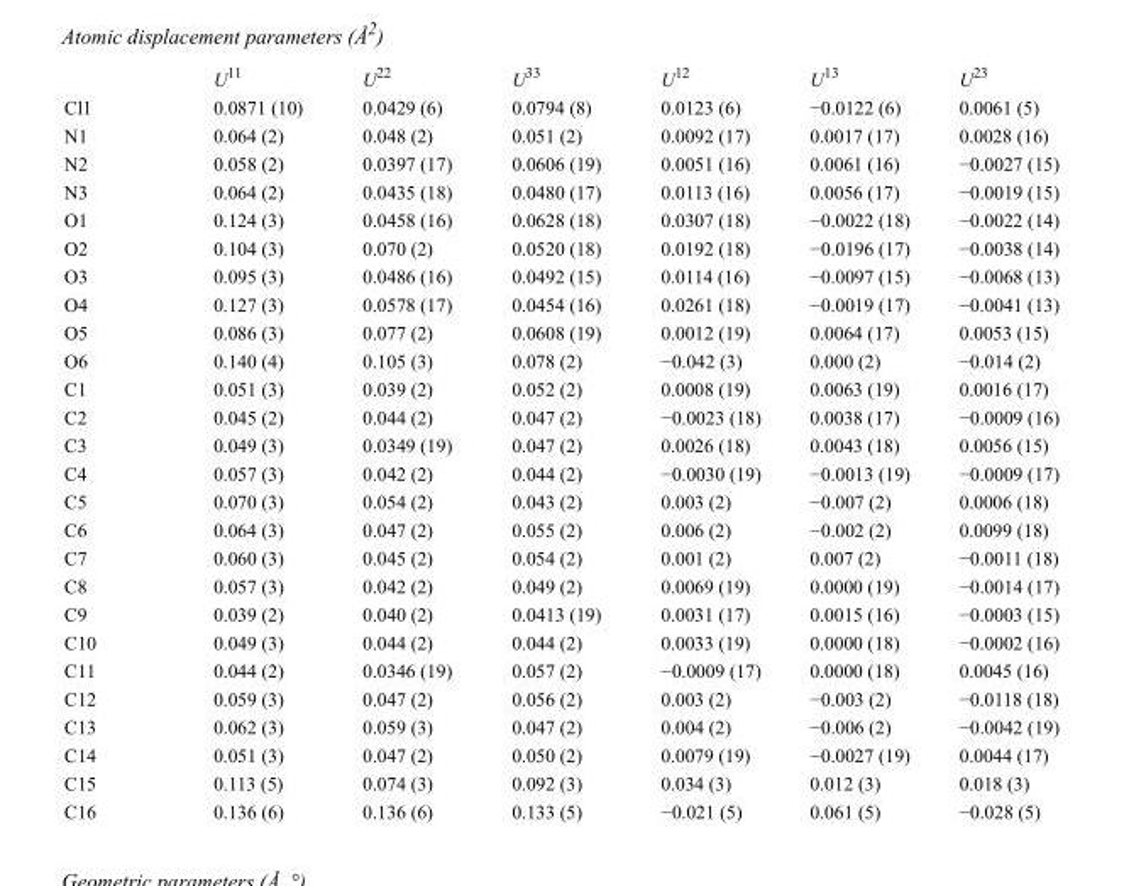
<table><thead><tr><td></td><td>U<sup>11</sup></td><td>U<sup>22</sup></td><td>U<sup>33</sup></td><td>U<sup>12</sup></td><td>U<sup>13</sup></td><td>U<sup>23</sup></td></tr></thead><tbody><tr><td>Cl1</td><td>0.0871 (10)</td><td>0.0429 (6)</td><td>0.0794 (8)</td><td>0.0123 (6)</td><td>−0.0122 (6)</td><td>0.0061 (5)</td></tr><tr><td>N1</td><td>0.064 (2)</td><td>0.048 (2)</td><td>0.051 (2)</td><td>0.0092 (17)</td><td>0.0017 (17)</td><td>0.0028 (16)</td></tr><tr><td>N2</td><td>0.058 (2)</td><td>0.0397 (17)</td><td>0.0606 (19)</td><td>0.0051 (16)</td><td>0.0061 (16)</td><td>−0.0027 (15)</td></tr><tr><td>N3</td><td>0.064 (2)</td><td>0.0435 (18)</td><td>0.0480 (17)</td><td>0.0113 (16)</td><td>0.0056 (17)</td><td>−0.0019 (15)</td></tr><tr><td>O1</td><td>0.124 (3)</td><td>0.0458 (16)</td><td>0.0628 (18)</td><td>0.0307 (18)</td><td>−0.0022 (18)</td><td>−0.0022 (14)</td></tr><tr><td>O2</td><td>0.104 (3)</td><td>0.070 (2)</td><td>0.0520 (18)</td><td>0.0192 (18)</td><td>−0.0196 (17)</td><td>−0.0038 (14)</td></tr><tr><td>O3</td><td>0.095 (3)</td><td>0.0486 (16)</td><td>0.0492 (15)</td><td>0.0114 (16)</td><td>−0.0097 (15)</td><td>−0.0068 (13)</td></tr><tr><td>O4</td><td>0.127 (3)</td><td>0.0578 (17)</td><td>0.0454 (16)</td><td>0.0261 (18)</td><td>−0.0019 (17)</td><td>−0.0041 (13)</td></tr><tr><td>O5</td><td>0.086 (3)</td><td>0.077 (2)</td><td>0.0608 (19)</td><td>0.0012 (19)</td><td>0.0064 (17)</td><td>0.0053 (15)</td></tr><tr><td>O6</td><td>0.140 (4)</td><td>0.105 (3)</td><td>0.078 (2)</td><td>−0.042 (3)</td><td>0.000 (2)</td><td>−0.014 (2)</td></tr><tr><td>C1</td><td>0.051 (3)</td><td>0.039 (2)</td><td>0.052 (2)</td><td>0.0008 (19)</td><td>0.0063 (19)</td><td>0.0016 (17)</td></tr><tr><td>C2</td><td>0.045 (2)</td><td>0.044 (2)</td><td>0.047 (2)</td><td>−0.0023 (18)</td><td>0.0038 (17)</td><td>−0.0009 (16)</td></tr><tr><td>C3</td><td>0.049 (3)</td><td>0.0349 (19)</td><td>0.047 (2)</td><td>0.0026 (18)</td><td>0.0043 (18)</td><td>0.0056 (15)</td></tr><tr><td>C4</td><td>0.057 (3)</td><td>0.042 (2)</td><td>0.044 (2)</td><td>−0.0030 (19)</td><td>−0.0013 (19)</td><td>−0.0009 (17)</td></tr><tr><td>C5</td><td>0.070 (3)</td><td>0.054 (2)</td><td>0.043 (2)</td><td>0.003 (2)</td><td>−0.007 (2)</td><td>0.0006 (18)</td></tr><tr><td>C6</td><td>0.064 (3)</td><td>0.047 (2)</td><td>0.055 (2)</td><td>0.006 (2)</td><td>−0.002 (2)</td><td>0.0099 (18)</td></tr><tr><td>C7</td><td>0.060 (3)</td><td>0.045 (2)</td><td>0.054 (2)</td><td>0.001 (2)</td><td>0.007 (2)</td><td>−0.0011 (18)</td></tr><tr><td>C8</td><td>0.057 (3)</td><td>0.042 (2)</td><td>0.049 (2)</td><td>0.0069 (19)</td><td>0.0000 (19)</td><td>−0.0014 (17)</td></tr><tr><td>C9</td><td>0.039 (2)</td><td>0.040 (2)</td><td>0.0413 (19)</td><td>0.0031 (17)</td><td>0.0015 (16)</td><td>−0.0003 (15)</td></tr><tr><td>C10</td><td>0.049 (3)</td><td>0.044 (2)</td><td>0.044 (2)</td><td>0.0033 (19)</td><td>0.0000 (18)</td><td>−0.0002 (16)</td></tr><tr><td>C11</td><td>0.044 (2)</td><td>0.0346 (19)</td><td>0.057 (2)</td><td>−0.0009 (17)</td><td>0.0000 (18)</td><td>0.0045 (16)</td></tr><tr><td>C12</td><td>0.059 (3)</td><td>0.047 (2)</td><td>0.056 (2)</td><td>0.003 (2)</td><td>−0.003 (2)</td><td>−0.0118 (18)</td></tr><tr><td>C13</td><td>0.062 (3)</td><td>0.059 (3)</td><td>0.047 (2)</td><td>0.004 (2)</td><td>−0.006 (2)</td><td>−0.0042 (19)</td></tr><tr><td>C14</td><td>0.051 (3)</td><td>0.047 (2)</td><td>0.050 (2)</td><td>0.0079 (19)</td><td>−0.0027 (19)</td><td>0.0044 (17)</td></tr><tr><td>C15</td><td>0.113 (5)</td><td>0.074 (3)</td><td>0.092 (3)</td><td>0.034 (3)</td><td>0.012 (3)</td><td>0.018 (3)</td></tr><tr><td>C16</td><td>0.136 (6)</td><td>0.136 (6)</td><td>0.133 (5)</td><td>−0.021 (5)</td><td>0.061 (5)</td><td>−0.028 (5)</td></tr></tbody></table>